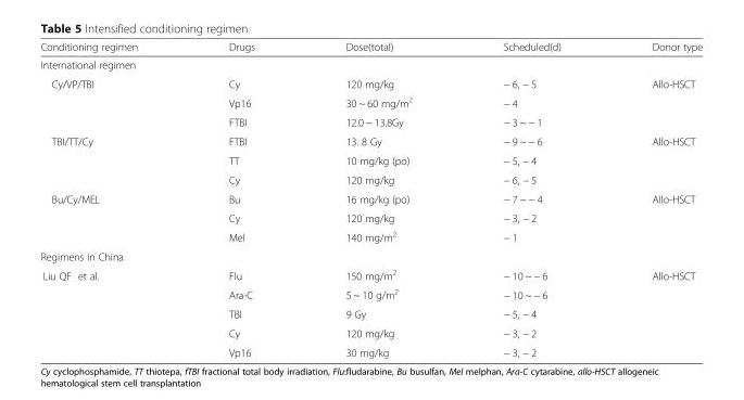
<table><thead><tr><td>Conditioning regimen</td><td>Drugs</td><td>Dose(total)</td><td>Scheduled(d)</td><td>Donor type</td></tr></thead><tbody><tr><td colspan="5">International regimen</td></tr><tr><td rowspan="3">Cy/VP/TBI</td><td>Cy</td><td>120 mg/kg</td><td>− 6, − 5</td><td rowspan="3">Allo-HSCT</td></tr><tr><td>Vp16</td><td>30 ~ 60 mg/m<sup>2</sup></td><td>− 4</td></tr><tr><td>FTBI</td><td>12.0 ~ 13.8Gy</td><td>− 3 ~ − 1</td></tr><tr><td rowspan="3">TBI/TT/Cy</td><td>FTBI</td><td>13. 8 Gy</td><td>− 9 ~ − 6</td><td rowspan="3">Allo-HSCT</td></tr><tr><td>TT</td><td>10 mg/kg (po)</td><td>− 5, − 4</td></tr><tr><td>Cy</td><td>120 mg/kg</td><td>− 6, − 5</td></tr><tr><td rowspan="3">Bu/Cy/MEL</td><td>Bu</td><td>16 mg/kg (po)</td><td>− 7 ~ − 4</td><td rowspan="3">Allo-HSCT</td></tr><tr><td>Cy</td><td>120 mg/kg</td><td>− 3, − 2</td></tr><tr><td>Mel</td><td>140 mg/m<sup>2</sup></td><td>− 1</td></tr><tr><td colspan="5">Regimens in China</td></tr><tr><td rowspan="5">Liu QF et al.</td><td>Flu</td><td>150 mg/m<sup>2</sup></td><td>− 10 ~ − 6</td><td rowspan="5">Allo-HSCT</td></tr><tr><td>Ara-C</td><td>5 ~ 10 g/m<sup>2</sup></td><td>− 10 ~ − 6</td></tr><tr><td>TBI</td><td>9 Gy</td><td>− 5, − 4</td></tr><tr><td>Cy</td><td>120 mg/kg</td><td>− 3, − 2</td></tr><tr><td>Vp16</td><td>30 mg/kg</td><td>− 3, − 2</td></tr></tbody></table>